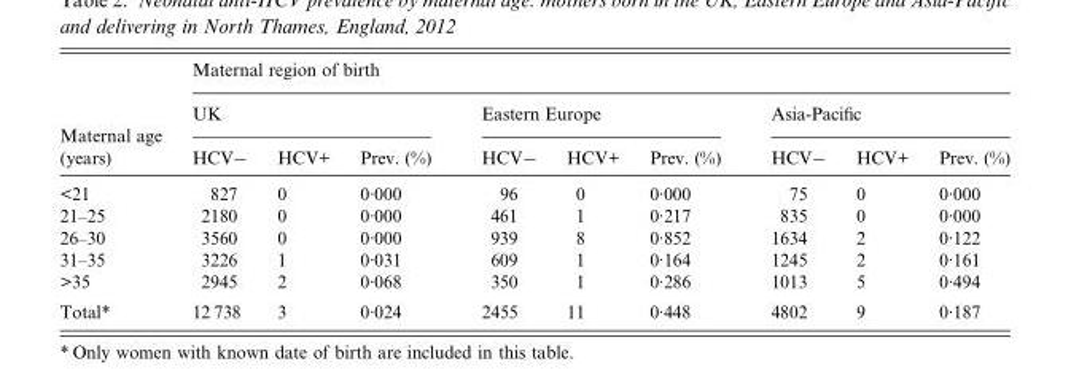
<table><thead><tr><td rowspan="3">Maternal age (years)</td><td colspan="9">Maternal region of birth</td></tr><tr><td colspan="3">UK</td><td colspan="3">Eastern Europe</td><td colspan="3">Asia-Pacific</td></tr><tr><td>HCV−</td><td>HCV+</td><td>Prev. (%)</td><td>HCV−</td><td>HCV+</td><td>Prev. (%)</td><td>HCV−</td><td>HCV+</td><td>Prev. (%)</td></tr></thead><tbody><tr><td>&lt;21</td><td>827</td><td>0</td><td>0·000</td><td>96</td><td>0</td><td>0·000</td><td>75</td><td>0</td><td>0·000</td></tr><tr><td>21–25</td><td>2180</td><td>0</td><td>0·000</td><td>461</td><td>1</td><td>0·217</td><td>835</td><td>0</td><td>0·000</td></tr><tr><td>26–30</td><td>3560</td><td>0</td><td>0·000</td><td>939</td><td>8</td><td>0·852</td><td>1634</td><td>2</td><td>0·122</td></tr><tr><td>31–35</td><td>3226</td><td>1</td><td>0·031</td><td>609</td><td>1</td><td>0·164</td><td>1245</td><td>2</td><td>0·161</td></tr><tr><td>&gt;35</td><td>2945</td><td>2</td><td>0·068</td><td>350</td><td>1</td><td>0·286</td><td>1013</td><td>5</td><td>0·494</td></tr><tr><td>Total*</td><td>12 738</td><td>3</td><td>0·024</td><td>2455</td><td>11</td><td>0·448</td><td>4802</td><td>9</td><td>0·187</td></tr></tbody></table>